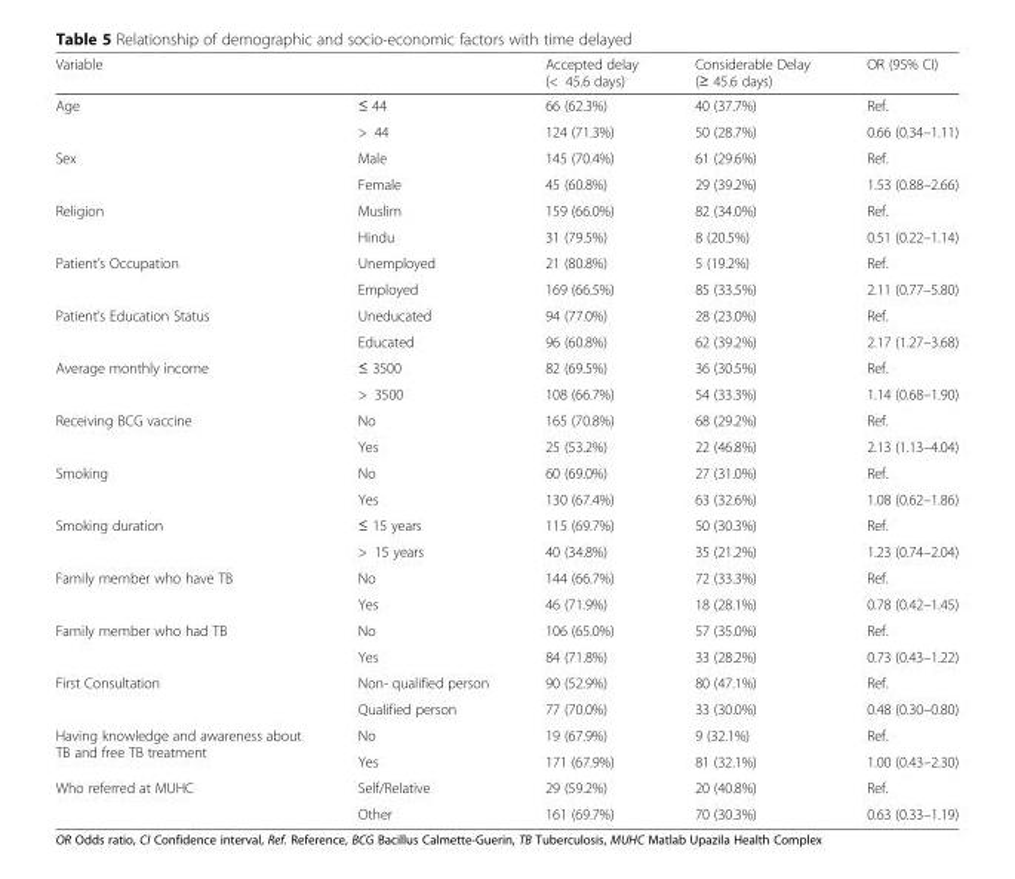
<table><thead><tr><td>Variable</td><td></td><td>Accepted delay (&lt; 45.6 days)</td><td>Considerable Delay (≥ 45.6 days)</td><td>OR (95% CI)</td></tr></thead><tbody><tr><td rowspan="2">Age</td><td>≤ 44</td><td>66 (62.3%)</td><td>40 (37.7%)</td><td>Ref.</td></tr><tr><td>&gt; 44</td><td>124 (71.3%)</td><td>50 (28.7%)</td><td>0.66 (0.34–1.11)</td></tr><tr><td rowspan="2">Sex</td><td>Male</td><td>145 (70.4%)</td><td>61 (29.6%)</td><td>Ref.</td></tr><tr><td>Female</td><td>45 (60.8%)</td><td>29 (39.2%)</td><td>1.53 (0.88–2.66)</td></tr><tr><td rowspan="2">Religion</td><td>Muslim</td><td>159 (66.0%)</td><td>82 (34.0%)</td><td>Ref.</td></tr><tr><td>Hindu</td><td>31 (79.5%)</td><td>8 (20.5%)</td><td>0.51 (0.22–1.14)</td></tr><tr><td rowspan="2">Patient’s Occupation</td><td>Unemployed</td><td>21 (80.8%)</td><td>5 (19.2%)</td><td>Ref.</td></tr><tr><td>Employed</td><td>169 (66.5%)</td><td>85 (33.5%)</td><td>2.11 (0.77–5.80)</td></tr><tr><td rowspan="2">Patient’s Education Status</td><td>Uneducated</td><td>94 (77.0%)</td><td>28 (23.0%)</td><td>Ref.</td></tr><tr><td>Educated</td><td>96 (60.8%)</td><td>62 (39.2%)</td><td>2.17 (1.27–3.68)</td></tr><tr><td rowspan="2">Average monthly income</td><td>≤ 3500</td><td>82 (69.5%)</td><td>36 (30.5%)</td><td>Ref.</td></tr><tr><td>&gt; 3500</td><td>108 (66.7%)</td><td>54 (33.3%)</td><td>1.14 (0.68–1.90)</td></tr><tr><td rowspan="2">Receiving BCG vaccine</td><td>No</td><td>165 (70.8%)</td><td>68 (29.2%)</td><td>Ref.</td></tr><tr><td>Yes</td><td>25 (53.2%)</td><td>22 (46.8%)</td><td>2.13 (1.13–4.04)</td></tr><tr><td rowspan="2">Smoking</td><td>No</td><td>60 (69.0%)</td><td>27 (31.0%)</td><td>Ref.</td></tr><tr><td>Yes</td><td>130 (67.4%)</td><td>63 (32.6%)</td><td>1.08 (0.62–1.86)</td></tr><tr><td rowspan="2">Smoking duration</td><td>≤ 15 years</td><td>115 (69.7%)</td><td>50 (30.3%)</td><td>Ref.</td></tr><tr><td>&gt; 15 years</td><td>40 (34.8%)</td><td>35 (21.2%)</td><td>1.23 (0.74–2.04)</td></tr><tr><td rowspan="2">Family member who have TB</td><td>No</td><td>144 (66.7%)</td><td>72 (33.3%)</td><td>Ref.</td></tr><tr><td>Yes</td><td>46 (71.9%)</td><td>18 (28.1%)</td><td>0.78 (0.42–1.45)</td></tr><tr><td rowspan="2">Family member who had TB</td><td>No</td><td>106 (65.0%)</td><td>57 (35.0%)</td><td>Ref.</td></tr><tr><td>Yes</td><td>84 (71.8%)</td><td>33 (28.2%)</td><td>0.73 (0.43–1.22)</td></tr><tr><td rowspan="2">First Consultation</td><td>Non- qualified person</td><td>90 (52.9%)</td><td>80 (47.1%)</td><td>Ref.</td></tr><tr><td>Qualified person</td><td>77 (70.0%)</td><td>33 (30.0%)</td><td>0.48 (0.30–0.80)</td></tr><tr><td rowspan="2">Having knowledge and awareness about TB and free TB treatment</td><td>No</td><td>19 (67.9%)</td><td>9 (32.1%)</td><td>Ref.</td></tr><tr><td>Yes</td><td>171 (67.9%)</td><td>81 (32.1%)</td><td>1.00 (0.43–2.30)</td></tr><tr><td rowspan="2">Who referred at MUHC</td><td>Self/Relative</td><td>29 (59.2%)</td><td>20 (40.8%)</td><td>Ref.</td></tr><tr><td>Other</td><td>161 (69.7%)</td><td>70 (30.3%)</td><td>0.63 (0.33–1.19)</td></tr></tbody></table>